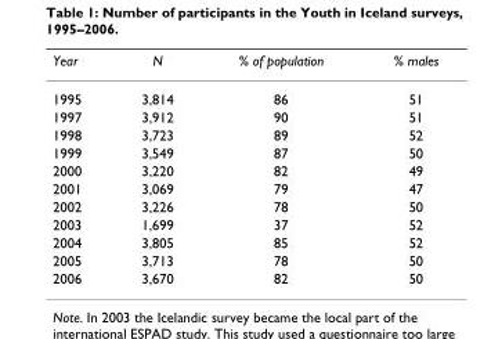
<table><thead><tr><td>Year</td><td>N</td><td>% of population</td><td>% males</td></tr></thead><tbody><tr><td>1995</td><td>3,814</td><td>86</td><td>51</td></tr><tr><td>1997</td><td>3,912</td><td>90</td><td>51</td></tr><tr><td>1998</td><td>3,723</td><td>89</td><td>52</td></tr><tr><td>1999</td><td>3,549</td><td>87</td><td>50</td></tr><tr><td>2000</td><td>3,220</td><td>82</td><td>49</td></tr><tr><td>2001</td><td>3,069</td><td>79</td><td>47</td></tr><tr><td>2002</td><td>3,226</td><td>78</td><td>50</td></tr><tr><td>2003</td><td>1,699</td><td>37</td><td>52</td></tr><tr><td>2004</td><td>3,805</td><td>85</td><td>52</td></tr><tr><td>2005</td><td>3,713</td><td>78</td><td>50</td></tr><tr><td>2006</td><td>3,670</td><td>82</td><td>50</td></tr></tbody></table>